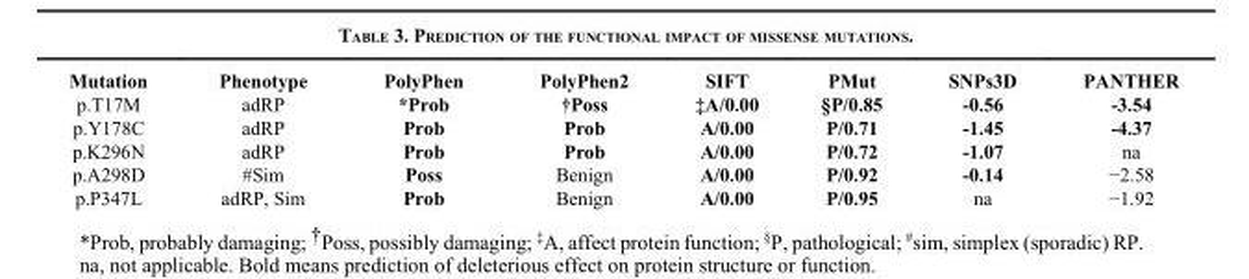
<table><thead><tr><td>Mutation</td><td>Phenotype</td><td>PolyPhen</td><td>PolyPhen2</td><td>SIFT</td><td>PMut</td><td>SNPs3D</td><td>PANTHER</td></tr></thead><tbody><tr><td>p.T17M</td><td>adRP</td><td>*Prob</td><td>†Poss</td><td>‡A/0.00</td><td>§P/0.85</td><td>-0.56</td><td>-3.54</td></tr><tr><td>p.Y178C</td><td>adRP</td><td>Prob</td><td>Prob</td><td>A/0.00</td><td>P/0.71</td><td>-1.45</td><td>-4.37</td></tr><tr><td>p.K296N</td><td>adRP</td><td>Prob</td><td>Prob</td><td>A/0.00</td><td>P/0.72</td><td>-1.07</td><td>na</td></tr><tr><td>p.A298D</td><td>#Sim</td><td>Poss</td><td>Benign</td><td>A/0.00</td><td>P/0.92</td><td>-0.14</td><td>−2.58</td></tr><tr><td>p.P347L</td><td>adRP, Sim</td><td>Prob</td><td>Benign</td><td>A/0.00</td><td>P/0.95</td><td>na</td><td>−1.92</td></tr></tbody></table>